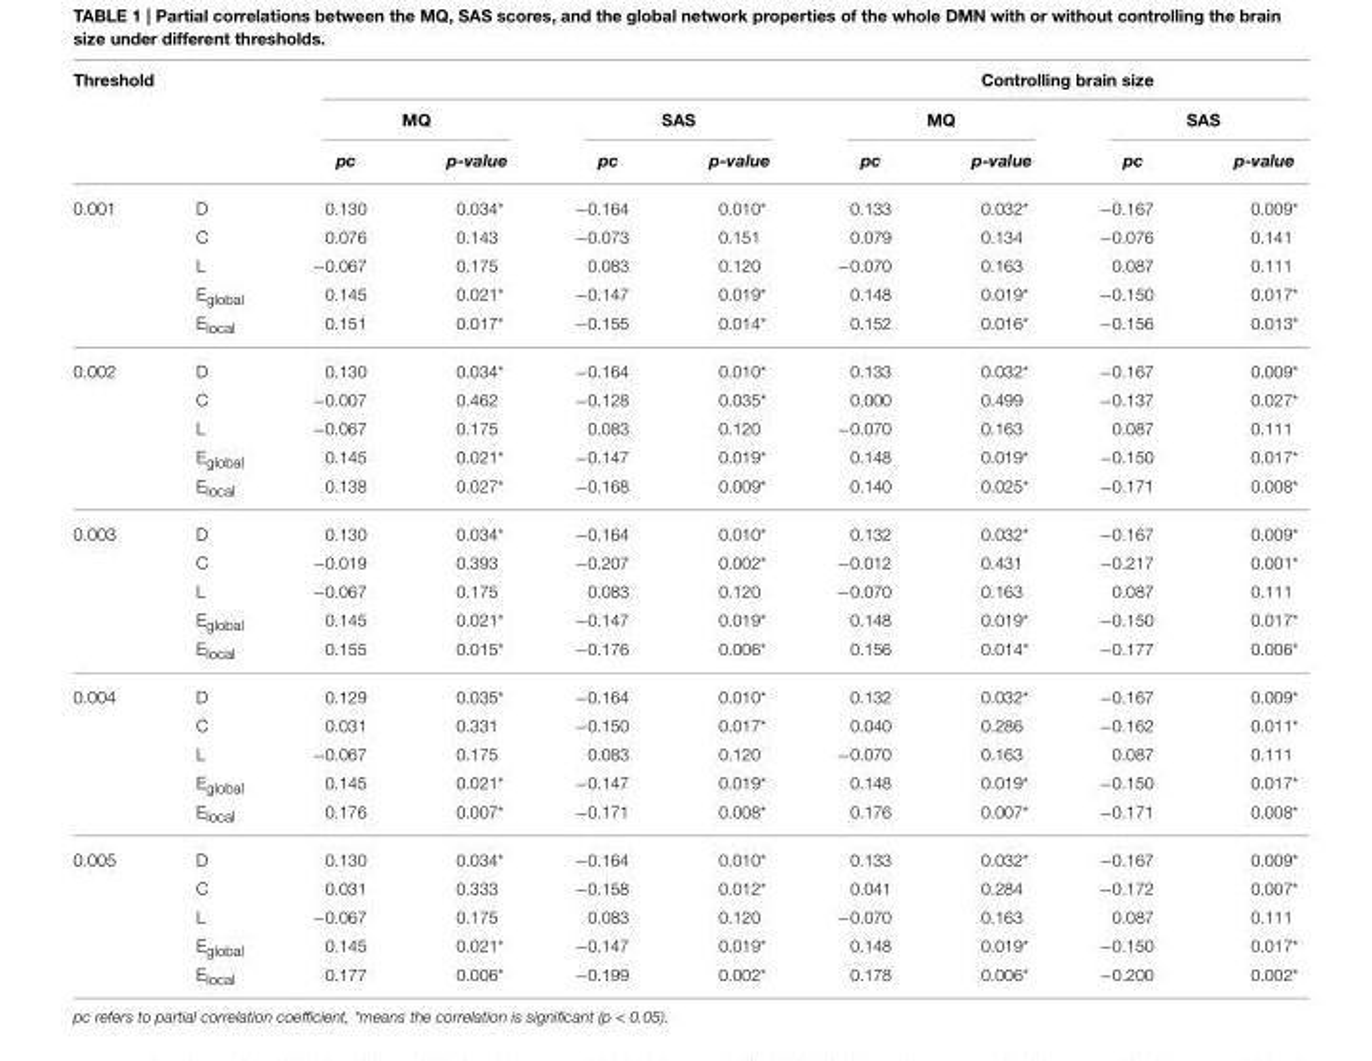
<table><thead><tr><td colspan="2">Threshold</td><td></td><td></td><td></td><td></td><td colspan="4">Controlling brain size</td></tr><tr><td rowspan="2"></td><td rowspan="2"></td><td colspan="2">MQ</td><td colspan="2">SAS</td><td colspan="2">MQ</td><td colspan="2">SAS</td></tr><tr><td>pc</td><td>p-value</td><td>pc</td><td>p-value</td><td>pc</td><td>p-value</td><td>pc</td><td>p-value</td></tr></thead><tbody><tr><td rowspan="5">0.001</td><td>D</td><td>0.130</td><td>0.034*</td><td>−0.164</td><td>0.010*</td><td>0.133</td><td>0.032*</td><td>−0.167</td><td>0.009*</td></tr><tr><td>C</td><td>0.076</td><td>0.143</td><td>−0.073</td><td>0.151</td><td>0.079</td><td>0.134</td><td>−0.076</td><td>0.141</td></tr><tr><td>L</td><td>−0.067</td><td>0.175</td><td>0.083</td><td>0.120</td><td>−0.070</td><td>0.163</td><td>0.087</td><td>0.111</td></tr><tr><td>E<sub>global</sub></td><td>0.145</td><td>0.021*</td><td>−0.147</td><td>0.019*</td><td>0.148</td><td>0.019*</td><td>−0.150</td><td>0.017*</td></tr><tr><td>E<sub>local</sub></td><td>0.151</td><td>0.017*</td><td>−0.155</td><td>0.014*</td><td>0.152</td><td>0.016*</td><td>−0.156</td><td>0.013*</td></tr><tr><td rowspan="5">0.002</td><td>D</td><td>0.130</td><td>0.034*</td><td>−0.164</td><td>0.010*</td><td>0.133</td><td>0.032*</td><td>−0.167</td><td>0.009*</td></tr><tr><td>C</td><td>−0.007</td><td>0.462</td><td>−0.128</td><td>0.035*</td><td>0.000</td><td>0.499</td><td>−0.137</td><td>0.027*</td></tr><tr><td>L</td><td>−0.067</td><td>0.175</td><td>0.083</td><td>0.120</td><td>−0.070</td><td>0.163</td><td>0.087</td><td>0.111</td></tr><tr><td>E<sub>global</sub></td><td>0.145</td><td>0.021*</td><td>−0.147</td><td>0.019*</td><td>0.148</td><td>0.019*</td><td>−0.150</td><td>0.017*</td></tr><tr><td>E<sub>local</sub></td><td>0.138</td><td>0.027*</td><td>−0.168</td><td>0.009*</td><td>0.140</td><td>0.025*</td><td>−0.171</td><td>0.008*</td></tr><tr><td rowspan="5">0.003</td><td>D</td><td>0.130</td><td>0.034*</td><td>−0.164</td><td>0.010*</td><td>0.132</td><td>0.032*</td><td>−0.167</td><td>0.009*</td></tr><tr><td>C</td><td>−0.019</td><td>0.393</td><td>−0.207</td><td>0.002*</td><td>−0.012</td><td>0.431</td><td>−0.217</td><td>0.001*</td></tr><tr><td>L</td><td>−0.067</td><td>0.175</td><td>0.083</td><td>0.120</td><td>−0.070</td><td>0.163</td><td>0.087</td><td>0.111</td></tr><tr><td>E<sub>global</sub></td><td>0.145</td><td>0.021*</td><td>−0.147</td><td>0.019*</td><td>0.148</td><td>0.019*</td><td>−0.150</td><td>0.017*</td></tr><tr><td>E<sub>local</sub></td><td>0.155</td><td>0.015*</td><td>−0.176</td><td>0.006*</td><td>0.156</td><td>0.014*</td><td>−0.177</td><td>0.006*</td></tr><tr><td rowspan="5">0.004</td><td>D</td><td>0.129</td><td>0.035*</td><td>−0.164</td><td>0.010*</td><td>0.132</td><td>0.032*</td><td>−0.167</td><td>0.009*</td></tr><tr><td>C</td><td>0.031</td><td>0.331</td><td>−0.150</td><td>0.017*</td><td>0.040</td><td>0.286</td><td>−0.162</td><td>0.011*</td></tr><tr><td>L</td><td>−0.067</td><td>0.175</td><td>0.083</td><td>0.120</td><td>−0.070</td><td>0.163</td><td>0.087</td><td>0.111</td></tr><tr><td>E<sub>global</sub></td><td>0.145</td><td>0.021*</td><td>−0.147</td><td>0.019*</td><td>0.148</td><td>0.019*</td><td>−0.150</td><td>0.017*</td></tr><tr><td>E<sub>local</sub></td><td>0.176</td><td>0.007*</td><td>−0.171</td><td>0.008*</td><td>0.176</td><td>0.007*</td><td>−0.171</td><td>0.008*</td></tr><tr><td rowspan="5">0.005</td><td>D</td><td>0.130</td><td>0.034*</td><td>−0.164</td><td>0.010*</td><td>0.133</td><td>0.032*</td><td>−0.167</td><td>0.009*</td></tr><tr><td>C</td><td>0.031</td><td>0.333</td><td>−0.158</td><td>0.012*</td><td>0.041</td><td>0.284</td><td>−0.172</td><td>0.007*</td></tr><tr><td>L</td><td>−0.067</td><td>0.175</td><td>0.083</td><td>0.120</td><td>−0.070</td><td>0.163</td><td>0.087</td><td>0.111</td></tr><tr><td>E<sub>global</sub></td><td>0.145</td><td>0.021*</td><td>−0.147</td><td>0.019*</td><td>0.148</td><td>0.019*</td><td>−0.150</td><td>0.017*</td></tr><tr><td>E<sub>local</sub></td><td>0.177</td><td>0.006*</td><td>−0.199</td><td>0.002*</td><td>0.178</td><td>0.006*</td><td>−0.200</td><td>0.002*</td></tr></tbody></table>